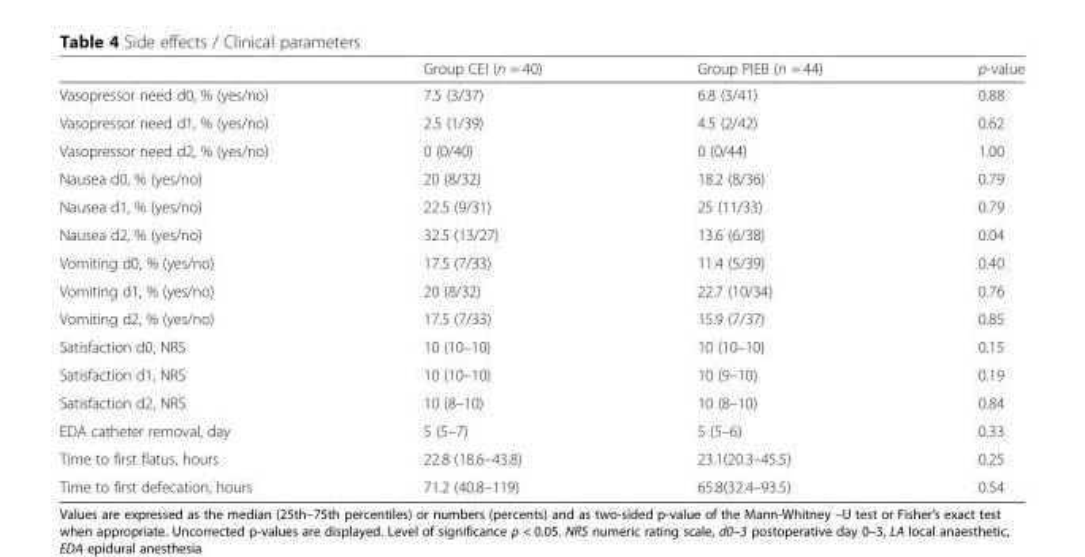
<table><thead><tr><td></td><td>Group CEI (n = 40)</td><td>Group PIEB (n = 44)</td><td>p-value</td></tr></thead><tbody><tr><td>Vasopressor need d0, % (yes/no)</td><td>7.5 (3/37)</td><td>6.8 (3/41)</td><td>0.88</td></tr><tr><td>Vasopressor need d1, % (yes/no)</td><td>2.5 (1/39)</td><td>4.5 (2/42)</td><td>0.62</td></tr><tr><td>Vasopressor need d2, % (yes/no)</td><td>0 (0/40)</td><td>0 (0/44)</td><td>1.00</td></tr><tr><td>Nausea d0, % (yes/no)</td><td>20 (8/32)</td><td>18.2 (8/36)</td><td>0.79</td></tr><tr><td>Nausea d1, % (yes/no)</td><td>22.5 (9/31)</td><td>25 (11/33)</td><td>0.79</td></tr><tr><td>Nausea d2, % (yes/no)</td><td>32.5 (13/27)</td><td>13.6 (6/38)</td><td>0.04</td></tr><tr><td>Vomiting d0, % (yes/no)</td><td>17.5 (7/33)</td><td>11.4 (5/39)</td><td>0.40</td></tr><tr><td>Vomiting d1, % (yes/no)</td><td>20 (8/32)</td><td>22.7 (10/34)</td><td>0.76</td></tr><tr><td>Vomiting d2, % (yes/no)</td><td>17.5 (7/33)</td><td>15.9 (7/37)</td><td>0.85</td></tr><tr><td>Satisfaction d0, NRS</td><td>10 (10–10)</td><td>10 (10–10)</td><td>0.15</td></tr><tr><td>Satisfaction d1, NRS</td><td>10 (10–10)</td><td>10 (9–10)</td><td>0.19</td></tr><tr><td>Satisfaction d2, NRS</td><td>10 (8–10)</td><td>10 (8–10)</td><td>0.84</td></tr><tr><td>EDA catheter removal, day</td><td>5 (5–7)</td><td>5 (5–6)</td><td>0.33</td></tr><tr><td>Time to first flatus, hours</td><td>22.8 (18.6–43.8)</td><td>23.1(20.3–45.5)</td><td>0.25</td></tr><tr><td>Time to first defecation, hours</td><td>71.2 (40.8–119)</td><td>65.8(32.4–93.5)</td><td>0.54</td></tr></tbody></table>